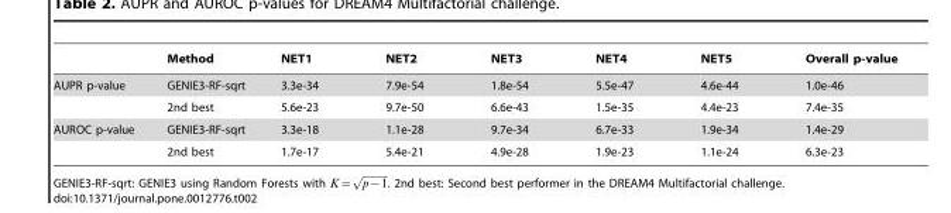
<table><thead><tr><td></td><td>Method</td><td>NET1</td><td>NET2</td><td>NET3</td><td>NET4</td><td>NET5</td><td>Overall p-value</td></tr></thead><tbody><tr><td rowspan="2">AUPR p-value</td><td>GENIE3-RF-sqrt</td><td>3.3e-34</td><td>7.9e-54</td><td>1.8e-54</td><td>5.5e-47</td><td>4.6e-44</td><td>1.0e-46</td></tr><tr><td>2nd best</td><td>5.6e-23</td><td>9.7e-50</td><td>6.6e-43</td><td>1.5e-35</td><td>4.4e-23</td><td>7.4e-35</td></tr><tr><td rowspan="2">AUROC p-value</td><td>GENIE3-RF-sqrt</td><td>3.3e-18</td><td>1.1e-28</td><td>9.7e-34</td><td>6.7e-33</td><td>1.9e-34</td><td>1.4e-29</td></tr><tr><td>2nd best</td><td>1.7e-17</td><td>5.4e-21</td><td>4.9e-28</td><td>1.9e-23</td><td>1.1e-24</td><td>6.3e-23</td></tr></tbody></table>